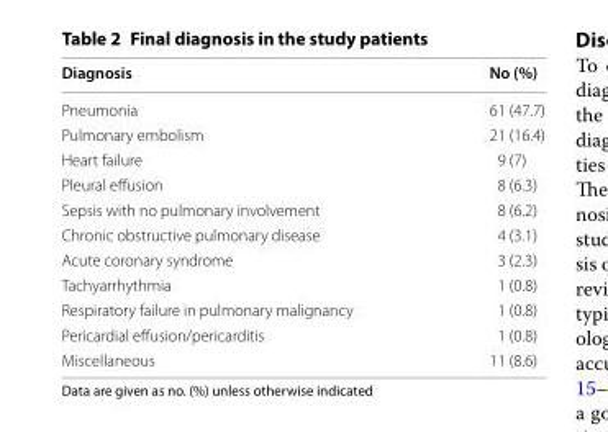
<table><thead><tr><td>Diagnosis</td><td>No (%)</td></tr></thead><tbody><tr><td>Pneumonia</td><td>61 (47.7)</td></tr><tr><td>Pulmonary embolism</td><td>21 (16.4)</td></tr><tr><td>Heart failure</td><td>9 (7)</td></tr><tr><td>Pleural effusion</td><td>8 (6.3)</td></tr><tr><td>Sepsis with no pulmonary involvement</td><td>8 (6.2)</td></tr><tr><td>Chronic obstructive pulmonary disease</td><td>4 (3.1)</td></tr><tr><td>Acute coronary syndrome</td><td>3 (2.3)</td></tr><tr><td>Tachyarrhythmia</td><td>1 (0.8)</td></tr><tr><td>Respiratory failure in pulmonary malignancy</td><td>1 (0.8)</td></tr><tr><td>Pericardial effusion/pericarditis</td><td>1 (0.8)</td></tr><tr><td>Miscellaneous</td><td>11 (8.6)</td></tr></tbody></table>